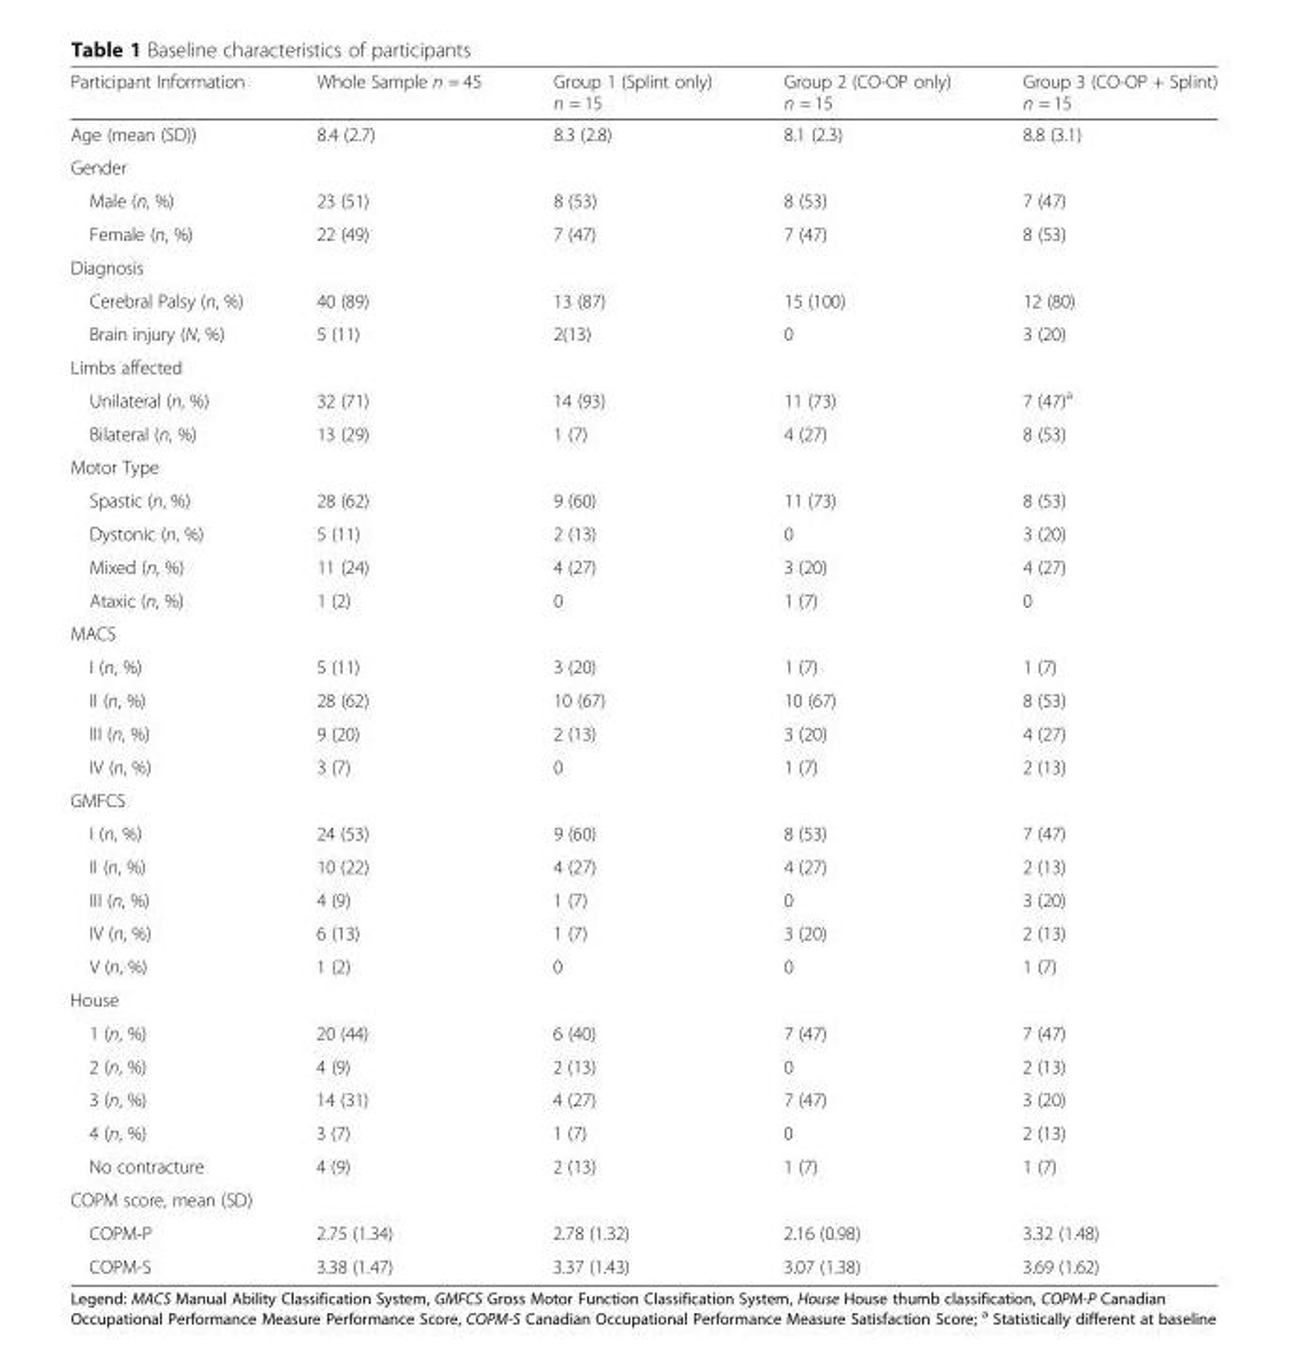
<table><thead><tr><td>Participant Information</td><td>Whole Sample n = 45</td><td>Group 1 (Splint only) n = 15</td><td>Group 2 (CO-OP only) n = 15</td><td>Group 3 (CO-OP + Splint) n = 15</td></tr></thead><tbody><tr><td>Age (mean (SD))</td><td>8.4 (2.7)</td><td>8.3 (2.8)</td><td>8.1 (2.3)</td><td>8.8 (3.1)</td></tr><tr><td colspan="5">Gender</td></tr><tr><td>Male (n, %)</td><td>23 (51)</td><td>8 (53)</td><td>8 (53)</td><td>7 (47)</td></tr><tr><td>Female (n, %)</td><td>22 (49)</td><td>7 (47)</td><td>7 (47)</td><td>8 (53)</td></tr><tr><td colspan="5">Diagnosis</td></tr><tr><td>Cerebral Palsy (n, %)</td><td>40 (89)</td><td>13 (87)</td><td>15 (100)</td><td>12 (80)</td></tr><tr><td>Brain injury (N, %)</td><td>5 (11)</td><td>2(13)</td><td>0</td><td>3 (20)</td></tr><tr><td colspan="5">Limbs affected</td></tr><tr><td>Unilateral (n, %)</td><td>32 (71)</td><td>14 (93)</td><td>11 (73)</td><td>7 (47)<sup>a</sup></td></tr><tr><td>Bilateral (n, %)</td><td>13 (29)</td><td>1 (7)</td><td>4 (27)</td><td>8 (53)</td></tr><tr><td colspan="5">Motor Type</td></tr><tr><td>Spastic (n, %)</td><td>28 (62)</td><td>9 (60)</td><td>11 (73)</td><td>8 (53)</td></tr><tr><td>Dystonic (n, %)</td><td>5 (11)</td><td>2 (13)</td><td>0</td><td>3 (20)</td></tr><tr><td>Mixed (n, %)</td><td>11 (24)</td><td>4 (27)</td><td>3 (20)</td><td>4 (27)</td></tr><tr><td>Ataxic (n, %)</td><td>1 (2)</td><td>0</td><td>1 (7)</td><td>0</td></tr><tr><td colspan="5">MACS</td></tr><tr><td>I (n, %)</td><td>5 (11)</td><td>3 (20)</td><td>1 (7)</td><td>1 (7)</td></tr><tr><td>II (n, %)</td><td>28 (62)</td><td>10 (67)</td><td>10 (67)</td><td>8 (53)</td></tr><tr><td>III (n, %)</td><td>9 (20)</td><td>2 (13)</td><td>3 (20)</td><td>4 (27)</td></tr><tr><td>IV (n, %)</td><td>3 (7)</td><td>0</td><td>1 (7)</td><td>2 (13)</td></tr><tr><td colspan="5">GMFCS</td></tr><tr><td>I (n, %)</td><td>24 (53)</td><td>9 (60)</td><td>8 (53)</td><td>7 (47)</td></tr><tr><td>II (n, %)</td><td>10 (22)</td><td>4 (27)</td><td>4 (27)</td><td>2 (13)</td></tr><tr><td>III (n, %)</td><td>4 (9)</td><td>1 (7)</td><td>0</td><td>3 (20)</td></tr><tr><td>IV (n, %)</td><td>6 (13)</td><td>1 (7)</td><td>3 (20)</td><td>2 (13)</td></tr><tr><td>V (n, %)</td><td>1 (2)</td><td>0</td><td>0</td><td>1 (7)</td></tr><tr><td colspan="5">House</td></tr><tr><td>1 (n, %)</td><td>20 (44)</td><td>6 (40)</td><td>7 (47)</td><td>7 (47)</td></tr><tr><td>2 (n, %)</td><td>4 (9)</td><td>2 (13)</td><td>0</td><td>2 (13)</td></tr><tr><td>3 (n, %)</td><td>14 (31)</td><td>4 (27)</td><td>7 (47)</td><td>3 (20)</td></tr><tr><td>4 (n, %)</td><td>3 (7)</td><td>1 (7)</td><td>0</td><td>2 (13)</td></tr><tr><td>No contracture</td><td>4 (9)</td><td>2 (13)</td><td>1 (7)</td><td>1 (7)</td></tr><tr><td colspan="5">COPM score, mean (SD)</td></tr><tr><td>COPM-P</td><td>2.75 (1.34)</td><td>2.78 (1.32)</td><td>2.16 (0.98)</td><td>3.32 (1.48)</td></tr><tr><td>COPM-S</td><td>3.38 (1.47)</td><td>3.37 (1.43)</td><td>3.07 (1.38)</td><td>3.69 (1.62)</td></tr></tbody></table>